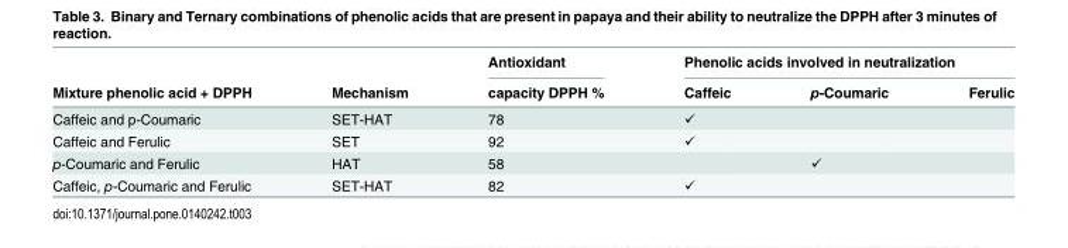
<table><thead><tr><td rowspan="2">Mixture phenolic acid + DPPH</td><td rowspan="2">Mechanism</td><td rowspan="2">Antioxidant capacity DPPH %</td><td colspan="3">Phenolic acids involved in neutralization</td></tr><tr><td>Caffeic</td><td>p-Coumaric</td><td>Ferulic</td></tr></thead><tbody><tr><td>Caffeic and p-Coumaric</td><td>SET-HAT</td><td>78</td><td>✓</td><td></td><td></td></tr><tr><td>Caffeic and Ferulic</td><td>SET</td><td>92</td><td>✓</td><td></td><td></td></tr><tr><td>p-Coumaric and Ferulic</td><td>HAT</td><td>58</td><td></td><td>✓</td><td></td></tr><tr><td>Caffeic, p-Coumaric and Ferulic</td><td>SET-HAT</td><td>82</td><td>✓</td><td></td><td></td></tr></tbody></table>